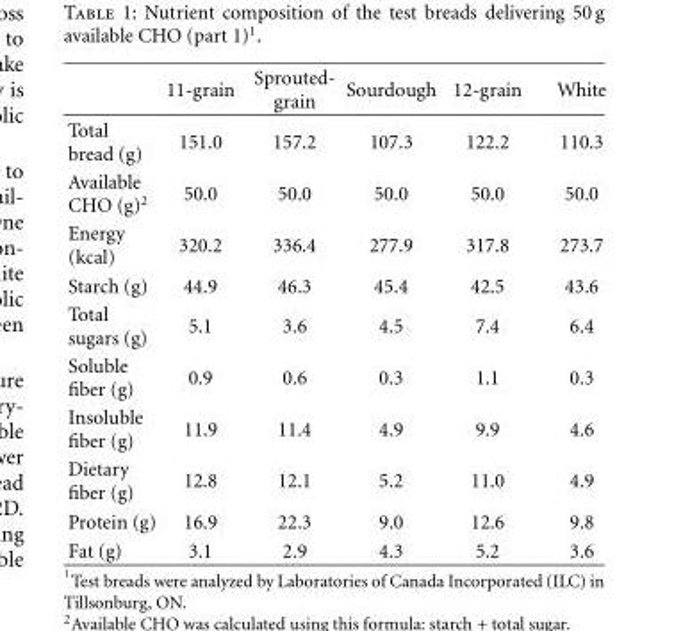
<table><thead><tr><td></td><td>11-grain</td><td>Sprouted- grain</td><td>Sourdough</td><td>12-grain</td><td>White</td></tr></thead><tbody><tr><td>Total bread (g)</td><td>151.0</td><td>157.2</td><td>107.3</td><td>122.2</td><td>110.3</td></tr><tr><td>Available CHO (g)<sup>2</sup></td><td>50.0</td><td>50.0</td><td>50.0</td><td>50.0</td><td>50.0</td></tr><tr><td>Energy (kcal)</td><td>320.2</td><td>336.4</td><td>277.9</td><td>317.8</td><td>273.7</td></tr><tr><td>Starch (g)</td><td>44.9</td><td>46.3</td><td>45.4</td><td>42.5</td><td>43.6</td></tr><tr><td>Total sugars (g)</td><td>5.1</td><td>3.6</td><td>4.5</td><td>7.4</td><td>6.4</td></tr><tr><td>Soluble fiber (g)</td><td>0.9</td><td>0.6</td><td>0.3</td><td>1.1</td><td>0.3</td></tr><tr><td>Insoluble fiber (g)</td><td>11.9</td><td>11.4</td><td>4.9</td><td>9.9</td><td>4.6</td></tr><tr><td>Dietary fiber (g)</td><td>12.8</td><td>12.1</td><td>5.2</td><td>11.0</td><td>4.9</td></tr><tr><td>Protein (g)</td><td>16.9</td><td>22.3</td><td>9.0</td><td>12.6</td><td>9.8</td></tr><tr><td>Fat (g)</td><td>3.1</td><td>2.9</td><td>4.3</td><td>5.2</td><td>3.6</td></tr></tbody></table>